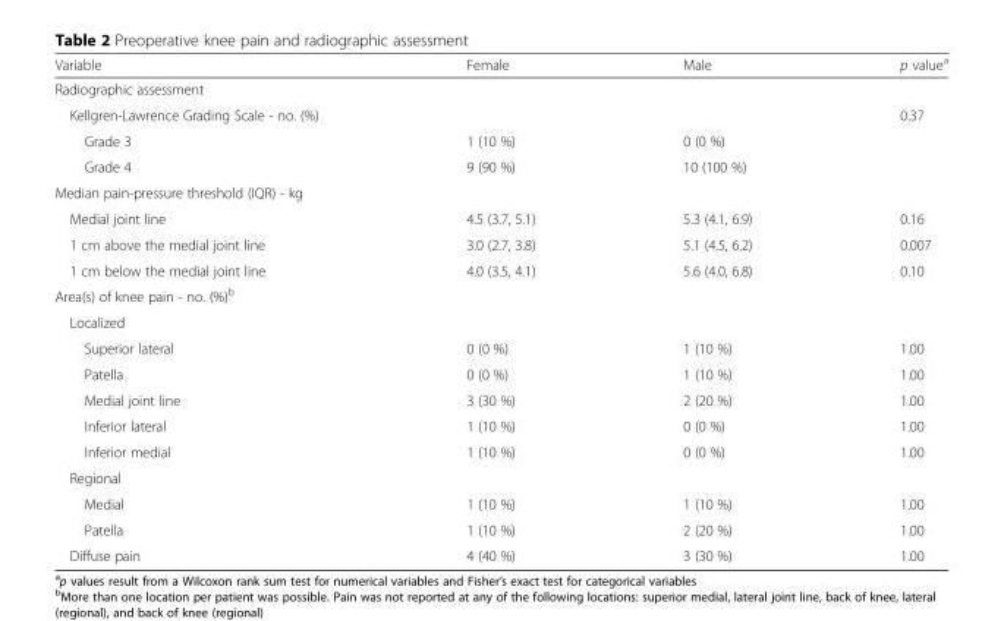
<table><thead><tr><td>Variable</td><td>Female</td><td>Male</td><td>p value<sup>a</sup></td></tr></thead><tbody><tr><td colspan="4">Radiographic assessment</td></tr><tr><td>Kellgren-Lawrence Grading Scale - no. (%)</td><td></td><td></td><td>0.37</td></tr><tr><td>Grade 3</td><td>1 (10 %)</td><td>0 (0 %)</td><td></td></tr><tr><td>Grade 4</td><td>9 (90 %)</td><td>10 (100 %)</td><td></td></tr><tr><td colspan="4">Median pain-pressure threshold (IQR) - kg</td></tr><tr><td>Medial joint line</td><td>4.5 (3.7, 5.1)</td><td>5.3 (4.1, 6.9)</td><td>0.16</td></tr><tr><td>1 cm above the medial joint line</td><td>3.0 (2.7, 3.8)</td><td>5.1 (4.5, 6.2)</td><td>0.007</td></tr><tr><td>1 cm below the medial joint line</td><td>4.0 (3.5, 4.1)</td><td>5.6 (4.0, 6.8)</td><td>0.10</td></tr><tr><td colspan="4">Area(s) of knee pain - no. (%)<sup>b</sup></td></tr><tr><td colspan="4">Localized</td></tr><tr><td>Superior lateral</td><td>0 (0 %)</td><td>1 (10 %)</td><td>1.00</td></tr><tr><td>Patella</td><td>0 (0 %)</td><td>1 (10 %)</td><td>1.00</td></tr><tr><td>Medial joint line</td><td>3 (30 %)</td><td>2 (20 %)</td><td>1.00</td></tr><tr><td>Inferior lateral</td><td>1 (10 %)</td><td>0 (0 %)</td><td>1.00</td></tr><tr><td>Inferior medial</td><td>1 (10 %)</td><td>0 (0 %)</td><td>1.00</td></tr><tr><td colspan="4">Regional</td></tr><tr><td>Medial</td><td>1 (10 %)</td><td>1 (10 %)</td><td>1.00</td></tr><tr><td>Patella</td><td>1 (10 %)</td><td>2 (20 %)</td><td>1.00</td></tr><tr><td>Diffuse pain</td><td>4 (40 %)</td><td>3 (30 %)</td><td>1.00</td></tr></tbody></table>